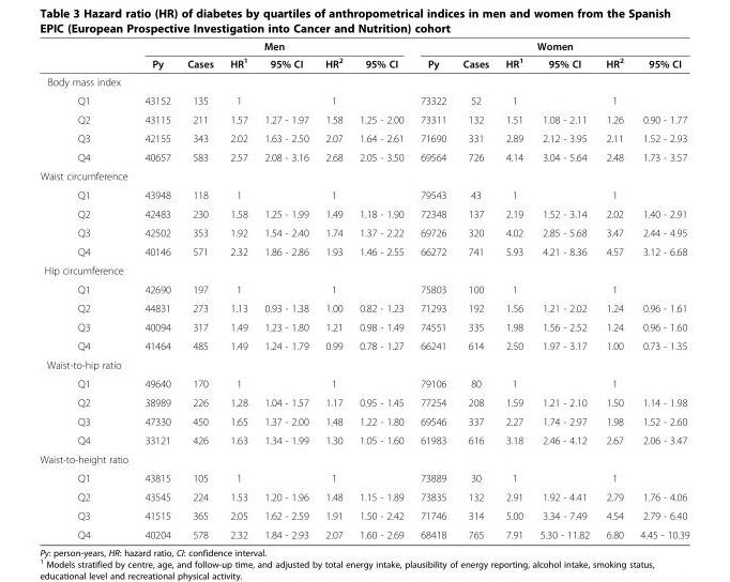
<table><thead><tr><td rowspan="2"></td><td colspan="6">Men</td><td colspan="6">Women</td></tr><tr><td>Py</td><td>Cases</td><td>HR<sup>1</sup></td><td>95% CI</td><td>HR<sup>2</sup></td><td>95% CI</td><td>Py</td><td>Cases</td><td>HR<sup>1</sup></td><td>95% CI</td><td>HR<sup>2</sup></td><td>95% CI</td></tr></thead><tbody><tr><td colspan="13">Body mass index</td></tr><tr><td>Q1</td><td>43152</td><td>135</td><td>1</td><td></td><td>1</td><td></td><td>73322</td><td>52</td><td>1</td><td></td><td>1</td><td></td></tr><tr><td>Q2</td><td>43115</td><td>211</td><td>1.57</td><td>1.27 - 1.97</td><td>1.58</td><td>1.25 - 2.00</td><td>73311</td><td>132</td><td>1.51</td><td>1.08 - 2.11</td><td>1.26</td><td>0.90 - 1.77</td></tr><tr><td>Q3</td><td>42155</td><td>343</td><td>2.02</td><td>1.63 - 2.50</td><td>2.07</td><td>1.64 - 2.61</td><td>71690</td><td>331</td><td>2.89</td><td>2.12 - 3.95</td><td>2.11</td><td>1.52 - 2.93</td></tr><tr><td>Q4</td><td>40657</td><td>583</td><td>2.57</td><td>2.08 - 3.16</td><td>2.68</td><td>2.05 - 3.50</td><td>69564</td><td>726</td><td>4.14</td><td>3.04 - 5.64</td><td>2.48</td><td>1.73 - 3.57</td></tr><tr><td colspan="13">Waist circumference</td></tr><tr><td>Q1</td><td>43948</td><td>118</td><td>1</td><td></td><td>1</td><td></td><td>79543</td><td>43</td><td>1</td><td></td><td>1</td><td></td></tr><tr><td>Q2</td><td>42483</td><td>230</td><td>1.58</td><td>1.25 - 1.99</td><td>1.49</td><td>1.18 - 1.90</td><td>72348</td><td>137</td><td>2.19</td><td>1.52 - 3.14</td><td>2.02</td><td>1.40 - 2.91</td></tr><tr><td>Q3</td><td>42502</td><td>353</td><td>1.92</td><td>1.54 - 2.40</td><td>1.74</td><td>1.37 - 2.22</td><td>69726</td><td>320</td><td>4.02</td><td>2.85 - 5.68</td><td>3.47</td><td>2.44 - 4.95</td></tr><tr><td>Q4</td><td>40146</td><td>571</td><td>2.32</td><td>1.86 - 2.86</td><td>1.93</td><td>1.46 - 2.55</td><td>66272</td><td>741</td><td>5.93</td><td>4.21 - 8.36</td><td>4.57</td><td>3.12 - 6.68</td></tr><tr><td colspan="13">Hip circumference</td></tr><tr><td>Q1</td><td>42690</td><td>197</td><td>1</td><td></td><td>1</td><td></td><td>75803</td><td>100</td><td>1</td><td></td><td>1</td><td></td></tr><tr><td>Q2</td><td>44831</td><td>273</td><td>1.13</td><td>0.93 - 1.38</td><td>1.00</td><td>0.82 - 1.23</td><td>71293</td><td>192</td><td>1.56</td><td>1.21 - 2.02</td><td>1.24</td><td>0.96 - 1.61</td></tr><tr><td>Q3</td><td>40094</td><td>317</td><td>1.49</td><td>1.23 - 1.80</td><td>1.21</td><td>0.98 - 1.49</td><td>74551</td><td>335</td><td>1.98</td><td>1.56 - 2.52</td><td>1.24</td><td>0.96 - 1.60</td></tr><tr><td>Q4</td><td>41464</td><td>485</td><td>1.49</td><td>1.24 - 1.79</td><td>0.99</td><td>0.78 - 1.27</td><td>66241</td><td>614</td><td>2.50</td><td>1.97 - 3.17</td><td>1.00</td><td>0.73 - 1.35</td></tr><tr><td colspan="13">Waist-to-hip ratio</td></tr><tr><td>Q1</td><td>49640</td><td>170</td><td>1</td><td></td><td>1</td><td></td><td>79106</td><td>80</td><td>1</td><td></td><td>1</td><td></td></tr><tr><td>Q2</td><td>38989</td><td>226</td><td>1.28</td><td>1.04 - 1.57</td><td>1.17</td><td>0.95 - 1.45</td><td>77254</td><td>208</td><td>1.59</td><td>1.21 - 2.10</td><td>1.50</td><td>1.14 - 1.98</td></tr><tr><td>Q3</td><td>47330</td><td>450</td><td>1.65</td><td>1.37 - 2.00</td><td>1.48</td><td>1.22 - 1.80</td><td>69546</td><td>337</td><td>2.27</td><td>1.74 - 2.97</td><td>1.98</td><td>1.52 - 2.60</td></tr><tr><td>Q4</td><td>33121</td><td>426</td><td>1.63</td><td>1.34 - 1.99</td><td>1.30</td><td>1.05 - 1.60</td><td>61983</td><td>616</td><td>3.18</td><td>2.46 - 4.12</td><td>2.67</td><td>2.06 - 3.47</td></tr><tr><td colspan="13">Waist-to-height ratio</td></tr><tr><td>Q1</td><td>43815</td><td>105</td><td>1</td><td></td><td>1</td><td></td><td>73889</td><td>30</td><td>1</td><td></td><td>1</td><td></td></tr><tr><td>Q2</td><td>43545</td><td>224</td><td>1.53</td><td>1.20 - 1.96</td><td>1.48</td><td>1.15 - 1.89</td><td>73835</td><td>132</td><td>2.91</td><td>1.92 - 4.41</td><td>2.79</td><td>1.76 - 4.06</td></tr><tr><td>Q3</td><td>41515</td><td>365</td><td>2.05</td><td>1.62 - 2.59</td><td>1.91</td><td>1.50 - 2.42</td><td>71746</td><td>314</td><td>5.00</td><td>3.34 - 7.49</td><td>4.54</td><td>2.79 - 6.40</td></tr><tr><td>Q4</td><td>40204</td><td>578</td><td>2.32</td><td>1.84 - 2.93</td><td>2.07</td><td>1.60 - 2.69</td><td>68418</td><td>765</td><td>7.91</td><td>5.30 - 11.82</td><td>6.80</td><td>4.45 - 10.39</td></tr></tbody></table>